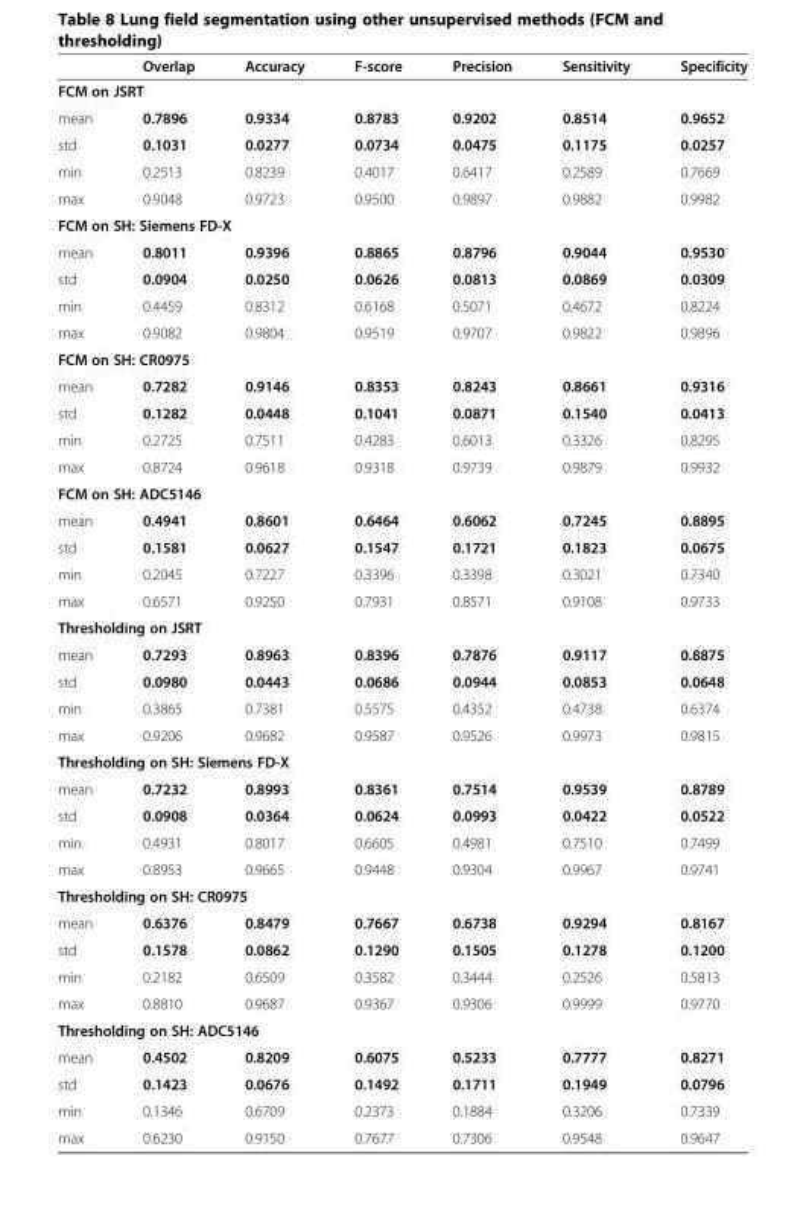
<table><thead><tr><td></td><td>Overlap</td><td>Accuracy</td><td>F-score</td><td>Precision</td><td>Sensitivity</td><td>Specificity</td></tr></thead><tbody><tr><td colspan="7">FCM on JSRT</td></tr><tr><td>mean</td><td>0.7896</td><td>0.9334</td><td>0.8783</td><td>0.9202</td><td>0.8514</td><td>0.9652</td></tr><tr><td>std</td><td>0.1031</td><td>0.0277</td><td>0.0734</td><td>0.0475</td><td>0.1175</td><td>0.0257</td></tr><tr><td>min</td><td>0.2513</td><td>0.8239</td><td>0.4017</td><td>0.6417</td><td>0.2589</td><td>0.7669</td></tr><tr><td>max</td><td>0.9048</td><td>0.9723</td><td>0.9500</td><td>0.9897</td><td>0.9882</td><td>0.9982</td></tr><tr><td colspan="7">FCM on SH: Siemens FD-X</td></tr><tr><td>mean</td><td>0.8011</td><td>0.9396</td><td>0.8865</td><td>0.8796</td><td>0.9044</td><td>0.9530</td></tr><tr><td>std</td><td>0.0904</td><td>0.0250</td><td>0.0626</td><td>0.0813</td><td>0.0869</td><td>0.0309</td></tr><tr><td>min</td><td>0.4459</td><td>0.8312</td><td>0.6168</td><td>0.5071</td><td>0.4672</td><td>0.8224</td></tr><tr><td>max</td><td>0.9082</td><td>0.9804</td><td>0.9519</td><td>0.9707</td><td>0.9822</td><td>0.9896</td></tr><tr><td colspan="7">FCM on SH: CR0975</td></tr><tr><td>mean</td><td>0.7282</td><td>0.9146</td><td>0.8353</td><td>0.8243</td><td>0.8661</td><td>0.9316</td></tr><tr><td>std</td><td>0.1282</td><td>0.0448</td><td>0.1041</td><td>0.0871</td><td>0.1540</td><td>0.0413</td></tr><tr><td>min</td><td>0.2725</td><td>0.7511</td><td>0.4283</td><td>0.6013</td><td>0.3326</td><td>0.8295</td></tr><tr><td>max</td><td>0.8724</td><td>0.9618</td><td>0.9318</td><td>0.9739</td><td>0.9879</td><td>0.9932</td></tr><tr><td colspan="7">FCM on SH: ADC5146</td></tr><tr><td>mean</td><td>0.4941</td><td>0.8601</td><td>0.6464</td><td>0.6062</td><td>0.7245</td><td>0.8895</td></tr><tr><td>std</td><td>0.1581</td><td>0.0627</td><td>0.1547</td><td>0.1721</td><td>0.1823</td><td>0.0675</td></tr><tr><td>min</td><td>0.2045</td><td>0.7227</td><td>0.3396</td><td>0.3398</td><td>0.3021</td><td>0.7340</td></tr><tr><td>max</td><td>0.6571</td><td>0.9250</td><td>0.7931</td><td>0.8571</td><td>0.9108</td><td>0.9733</td></tr><tr><td colspan="7">Thresholding on JSRT</td></tr><tr><td>mean</td><td>0.7293</td><td>0.8963</td><td>0.8396</td><td>0.7876</td><td>0.9117</td><td>0.8875</td></tr><tr><td>std</td><td>0.0980</td><td>0.0443</td><td>0.0686</td><td>0.0944</td><td>0.0853</td><td>0.0648</td></tr><tr><td>min</td><td>0.3865</td><td>0.7381</td><td>0.5575</td><td>0.4352</td><td>0.4738</td><td>0.6374</td></tr><tr><td>max</td><td>0.9206</td><td>0.9682</td><td>0.9587</td><td>0.9526</td><td>0.9973</td><td>0.9815</td></tr><tr><td colspan="7">Thresholding on SH: Siemens FD-X</td></tr><tr><td>mean</td><td>0.7232</td><td>0.8993</td><td>0.8361</td><td>0.7514</td><td>0.9539</td><td>0.8789</td></tr><tr><td>std</td><td>0.0908</td><td>0.0364</td><td>0.0624</td><td>0.0993</td><td>0.0422</td><td>0.0522</td></tr><tr><td>min</td><td>0.4931</td><td>0.8017</td><td>0.6605</td><td>0.4981</td><td>0.7510</td><td>0.7499</td></tr><tr><td>max</td><td>0.8953</td><td>0.9665</td><td>0.9448</td><td>0.9304</td><td>0.9967</td><td>0.9741</td></tr><tr><td colspan="7">Thresholding on SH: CR0975</td></tr><tr><td>mean</td><td>0.6376</td><td>0.8479</td><td>0.7667</td><td>0.6738</td><td>0.9294</td><td>0.8167</td></tr><tr><td>std</td><td>0.1578</td><td>0.0862</td><td>0.1290</td><td>0.1505</td><td>0.1278</td><td>0.1200</td></tr><tr><td>min</td><td>0.2182</td><td>0.6509</td><td>0.3582</td><td>0.3444</td><td>0.2526</td><td>0.5813</td></tr><tr><td>max</td><td>0.8810</td><td>0.9687</td><td>0.9367</td><td>0.9306</td><td>0.9999</td><td>0.9770</td></tr><tr><td colspan="7">Thresholding on SH: ADC5146</td></tr><tr><td>mean</td><td>0.4502</td><td>0.8209</td><td>0.6075</td><td>0.5233</td><td>0.7777</td><td>0.8271</td></tr><tr><td>std</td><td>0.1423</td><td>0.0676</td><td>0.1492</td><td>0.1711</td><td>0.1949</td><td>0.0796</td></tr><tr><td>min</td><td>0.1346</td><td>0.6709</td><td>0.2373</td><td>0.1884</td><td>0.3206</td><td>0.7339</td></tr><tr><td>max</td><td>0.6230</td><td>0.9150</td><td>0.7677</td><td>0.7306</td><td>0.9548</td><td>0.9647</td></tr></tbody></table>